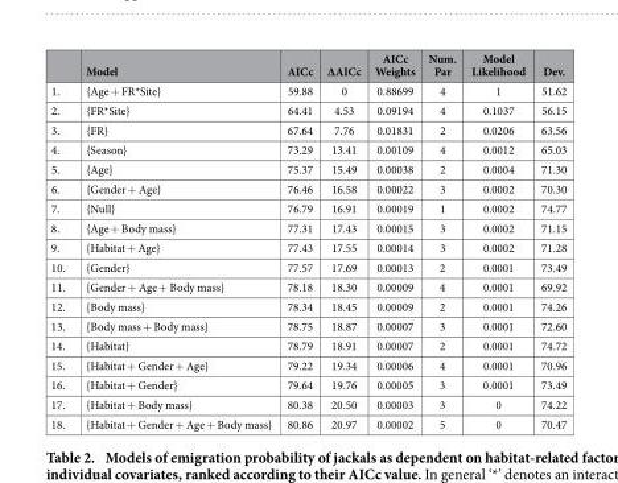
<table><thead><tr><td></td><td>Model</td><td>AICc</td><td>ΔAICc</td><td>AICc Weights</td><td>Num. Par</td><td>Model Likelihood</td><td>Dev.</td></tr></thead><tbody><tr><td>1.</td><td>{Age + FR*Site}</td><td>59.88</td><td>0</td><td>0.88699</td><td>4</td><td>1</td><td>51.62</td></tr><tr><td>2.</td><td>{FR*Site}</td><td>64.41</td><td>4.53</td><td>0.09194</td><td>4</td><td>0.1037</td><td>56.15</td></tr><tr><td>3.</td><td>{FR}</td><td>67.64</td><td>7.76</td><td>0.01831</td><td>2</td><td>0.0206</td><td>63.56</td></tr><tr><td>4.</td><td>{Season}</td><td>73.29</td><td>13.41</td><td>0.00109</td><td>4</td><td>0.0012</td><td>65.03</td></tr><tr><td>5.</td><td>{Age}</td><td>75.37</td><td>15.49</td><td>0.00038</td><td>2</td><td>0.0004</td><td>71.30</td></tr><tr><td>6.</td><td>{Gender + Age}</td><td>76.46</td><td>16.58</td><td>0.00022</td><td>3</td><td>0.0002</td><td>70.30</td></tr><tr><td>7.</td><td>{Null}</td><td>76.79</td><td>16.91</td><td>0.00019</td><td>1</td><td>0.0002</td><td>74.77</td></tr><tr><td>8.</td><td>{Age + Body mass}</td><td>77.31</td><td>17.43</td><td>0.00015</td><td>3</td><td>0.0002</td><td>71.15</td></tr><tr><td>9.</td><td>{Habitat + Age}</td><td>77.43</td><td>17.55</td><td>0.00014</td><td>3</td><td>0.0002</td><td>71.28</td></tr><tr><td>10.</td><td>{Gender}</td><td>77.57</td><td>17.69</td><td>0.00013</td><td>2</td><td>0.0001</td><td>73.49</td></tr><tr><td>11.</td><td>{Gender + Age + Body mass}</td><td>78.18</td><td>18.30</td><td>0.00009</td><td>4</td><td>0.0001</td><td>69.92</td></tr><tr><td>12.</td><td>{Body mass}</td><td>78.34</td><td>18.45</td><td>0.00009</td><td>2</td><td>0.0001</td><td>74.26</td></tr><tr><td>13.</td><td>{Body mass + Body mass}</td><td>78.75</td><td>18.87</td><td>0.00007</td><td>3</td><td>0.0001</td><td>72.60</td></tr><tr><td>14.</td><td>{Habitat}</td><td>78.79</td><td>18.91</td><td>0.00007</td><td>2</td><td>0.0001</td><td>74.72</td></tr><tr><td>15.</td><td>{Habitat + Gender + Age}</td><td>79.22</td><td>19.34</td><td>0.00006</td><td>4</td><td>0.0001</td><td>70.96</td></tr><tr><td>16.</td><td>{Habitat + Gender}</td><td>79.64</td><td>19.76</td><td>0.00005</td><td>3</td><td>0.0001</td><td>73.49</td></tr><tr><td>17.</td><td>{Habitat + Body mass}</td><td>80.38</td><td>20.50</td><td>0.00003</td><td>3</td><td>0</td><td>74.22</td></tr><tr><td>18.</td><td>{Habitat + Gender + Age + Body mass}</td><td>80.86</td><td>20.97</td><td>0.00002</td><td>5</td><td>0</td><td>70.47</td></tr></tbody></table>